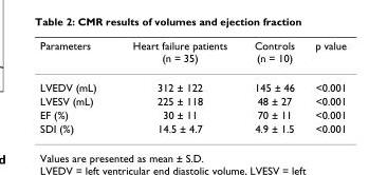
<table><thead><tr><td>Parameters</td><td>Heart failure patients (n = 35)</td><td>Controls (n = 10)</td><td>p value</td></tr></thead><tbody><tr><td>LVEDV (mL)</td><td>312 ± 122</td><td>145 ± 46</td><td>&lt;0.001</td></tr><tr><td>LVESV (mL)</td><td>225 ± 118</td><td>48 ± 27</td><td>&lt;0.001</td></tr><tr><td>EF (%)</td><td>30 ± 11</td><td>70 ± 11</td><td>&lt;0.001</td></tr><tr><td>SDI (%)</td><td>14.5 ± 4.7</td><td>4.9 ± 1.5</td><td>&lt;0.001</td></tr></tbody></table>